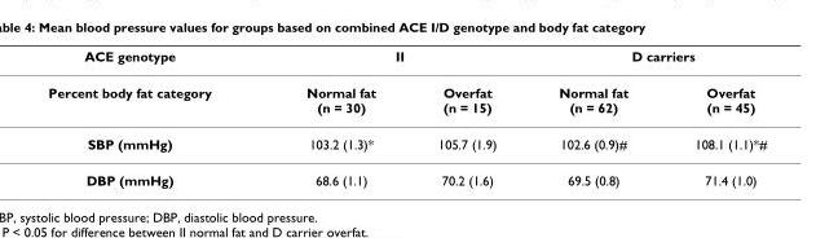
<table><thead><tr><td rowspan="2">ACE genotype Percent body fat category</td><td colspan="2">II</td><td colspan="2">D carriers</td></tr><tr><td>Normal fat (n = 30)</td><td>Overfat (n = 15)</td><td>Normal fat (n = 62)</td><td>Overfat (n = 45)</td></tr></thead><tbody><tr><td>SBP (mmHg)</td><td>103.2 (1.3)*</td><td>105.7 (1.9)</td><td>102.6 (0.9)#</td><td>108.1 (1.1)*#</td></tr><tr><td>DBP (mmHg)</td><td>68.6 (1.1)</td><td>70.2 (1.6)</td><td>69.5 (0.8)</td><td>71.4 (1.0)</td></tr></tbody></table>